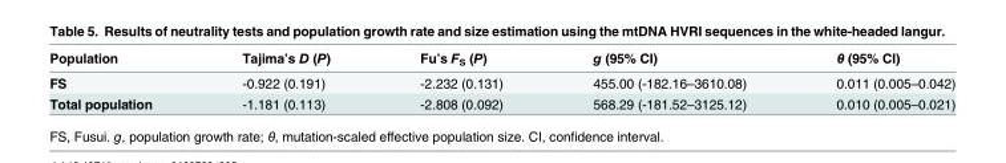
<table><thead><tr><td>Population</td><td>Tajima’s D (P)</td><td>Fu’s F<sub>S</sub> (P)</td><td>g (95% CI)</td><td>θ (95% CI)</td></tr></thead><tbody><tr><td>FS</td><td>-0.922 (0.191)</td><td>-2.232 (0.131)</td><td>455.00 (-182.16–3610.08)</td><td>0.011 (0.005–0.042)</td></tr><tr><td>Total population</td><td>-1.181 (0.113)</td><td>-2.808 (0.092)</td><td>568.29 (-181.52–3125.12)</td><td>0.010 (0.005–0.021)</td></tr></tbody></table>